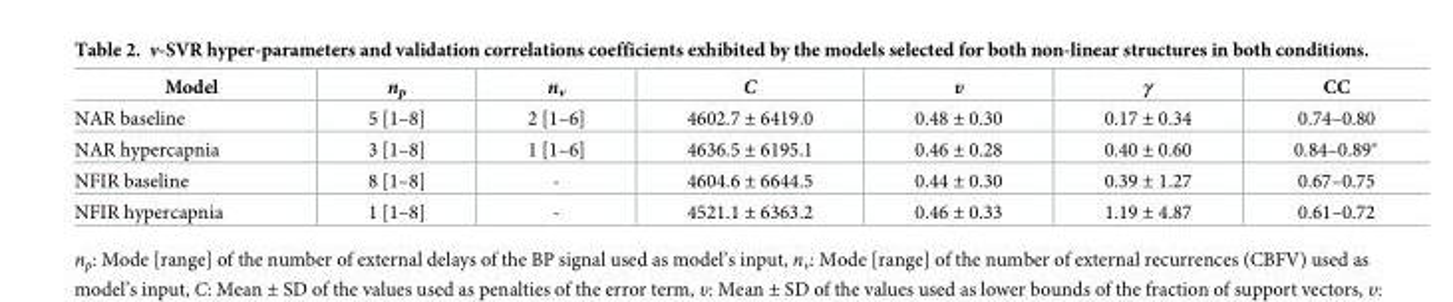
<table><thead><tr><td>Model</td><td>n<sub>p</sub></td><td>n<sub>v</sub></td><td>C</td><td>υ</td><td>γ</td><td>CC</td></tr></thead><tbody><tr><td>NAR baseline</td><td>5 [1–8]</td><td>2 [1–6]</td><td>4602.7 ± 6419.0</td><td>0.48 ± 0.30</td><td>0.17 ± 0.34</td><td>0.74–0.80</td></tr><tr><td>NAR hypercapnia</td><td>3 [1–8]</td><td>1 [1–6]</td><td>4636.5 ± 6195.1</td><td>0.46 ± 0.28</td><td>0.40 ± 0.60</td><td>0.84–0.89*</td></tr><tr><td>NFIR baseline</td><td>8 [1–8]</td><td>-</td><td>4604.6 ± 6644.5</td><td>0.44 ± 0.30</td><td>0.39 ± 1.27</td><td>0.67–0.75</td></tr><tr><td>NFIR hypercapnia</td><td>1 [1–8]</td><td>-</td><td>4521.1 ± 6363.2</td><td>0.46 ± 0.33</td><td>1.19 ± 4.87</td><td>0.61–0.72</td></tr></tbody></table>